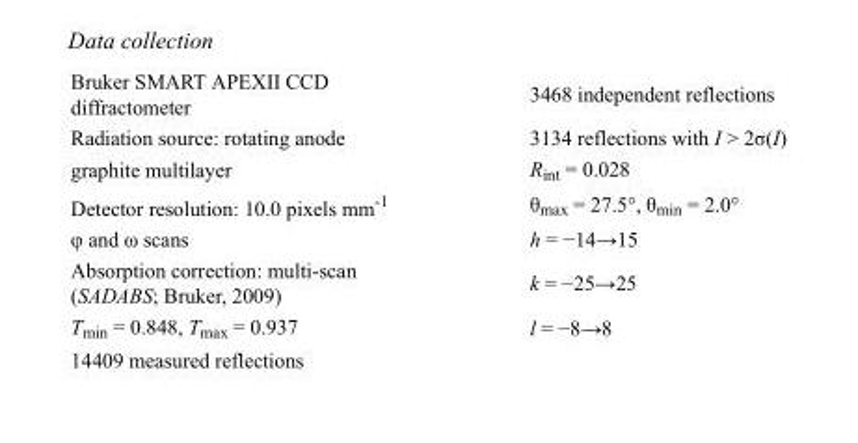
<table><tbody><tr><td>Bruker SMART APEXII CCD diffractometer</td><td>3468 independent reflections</td></tr><tr><td>Radiation source: rotating anode</td><td>3134 reflections with I &gt; 2σ(I)</td></tr><tr><td>graphite multilayer</td><td>R<sub>int</sub> = 0.028</td></tr><tr><td>Detector resolution: 10.0 pixels mm<sup>-1</sup></td><td>θ<sub>max</sub> = 27.5°, θ<sub>min</sub> = 2.0°</td></tr><tr><td>φ and ω scans</td><td>h = −14→15</td></tr><tr><td>Absorption correction: multi-scan (SADABS; Bruker, 2009)</td><td>k = −25→25</td></tr><tr><td>T<sub>min</sub> = 0.848, T<sub>max</sub> = 0.937</td><td>l = −8→8</td></tr><tr><td>14409 measured reflections</td><td></td></tr></tbody></table>